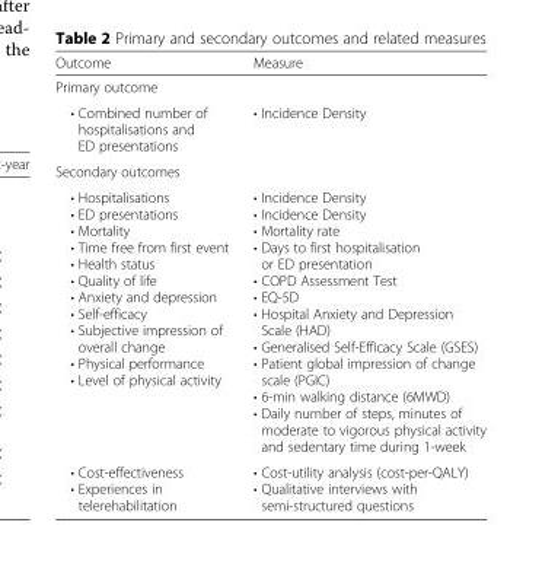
<table><thead><tr><td>Outcome</td><td>Measure</td></tr></thead><tbody><tr><td colspan="2">Primary outcome</td></tr><tr><td>• Combined number of hospitalisations and ED presentations</td><td>• Incidence Density</td></tr><tr><td colspan="2">Secondary outcomes</td></tr><tr><td>• Hospitalisations • ED presentations • Mortality • Time free from first event • Health status • Quality of life • Anxiety and depression • Self-efficacy • Subjective impression of overall change • Physical performance • Level of physical activity</td><td>• Incidence Density • Incidence Density • Mortality rate • Days to first hospitalisation or ED presentation • COPD Assessment Test • EQ-5D • Hospital Anxiety and Depression Scale (HAD) • Generalised Self-Efficacy Scale (GSES) • Patient global impression of change scale (PGIC) • 6-min walking distance (6MWD) • Daily number of steps, minutes of moderate to vigorous physical activity and sedentary time during 1-week</td></tr><tr><td>• Cost-effectiveness • Experiences in telerehabilitation</td><td>• Cost-utility analysis (cost-per-QALY) • Qualitative interviews with semi-structured questions</td></tr></tbody></table>